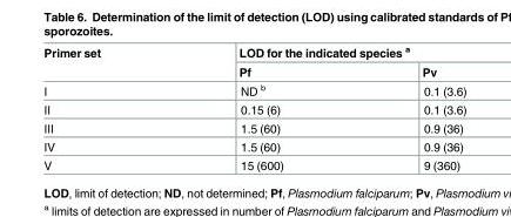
<table><thead><tr><td rowspan="2">Primer set</td><td colspan="2">LOD for the indicated species <sup>a</sup></td></tr><tr><td>Pf</td><td>Pv</td></tr></thead><tbody><tr><td>I</td><td>ND <sup>b</sup></td><td>0.1 (3.6)</td></tr><tr><td>II</td><td>0.15 (6)</td><td>0.1 (3.6)</td></tr><tr><td>III</td><td>1.5 (60)</td><td>0.9 (36)</td></tr><tr><td>IV</td><td>1.5 (60)</td><td>0.9 (36)</td></tr><tr><td>V</td><td>15 (600)</td><td>9 (360)</td></tr></tbody></table>